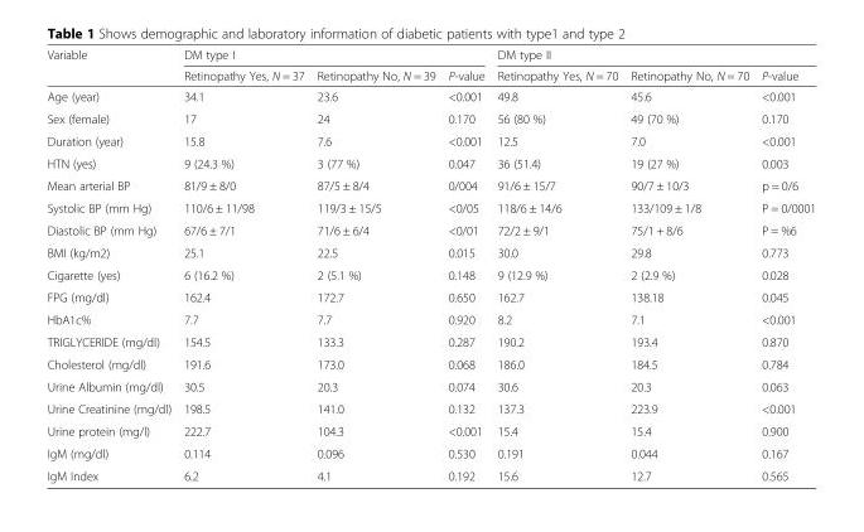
<table><thead><tr><td rowspan="2">Variable</td><td colspan="3">DM type I</td><td colspan="3">DM type II</td></tr><tr><td>Retinopathy Yes, N = 37</td><td>Retinopathy No, N = 39</td><td>P-value</td><td>Retinopathy Yes, N = 70</td><td>Retinopathy No, N = 70</td><td>P-value</td></tr></thead><tbody><tr><td>Age (year)</td><td>34.1</td><td>23.6</td><td>&lt;0.001</td><td>49.8</td><td>45.6</td><td>&lt;0.001</td></tr><tr><td>Sex (female)</td><td>17</td><td>24</td><td>0.170</td><td>56 (80 %)</td><td>49 (70 %)</td><td>0.170</td></tr><tr><td>Duration (year)</td><td>15.8</td><td>7.6</td><td>&lt;0.001</td><td>12.5</td><td>7.0</td><td>&lt;0.001</td></tr><tr><td>HTN (yes)</td><td>9 (24.3 %)</td><td>3 (77 %)</td><td>0.047</td><td>36 (51.4)</td><td>19 (27 %)</td><td>0.003</td></tr><tr><td>Mean arterial BP</td><td>81/9 ± 8/0</td><td>87/5 ± 8/4</td><td>0/004</td><td>91/6 ± 15/7</td><td>90/7 ± 10/3</td><td>p = 0/6</td></tr><tr><td>Systolic BP (mm Hg)</td><td>110/6 ± 11/98</td><td>119/3 ± 15/5</td><td>&lt;0/05</td><td>118/6 ± 14/6</td><td>133/109 ± 1/8</td><td>P = 0/0001</td></tr><tr><td>Diastolic BP (mm Hg)</td><td>67/6 ± 7/1</td><td>71/6 ± 6/4</td><td>&lt;0/01</td><td>72/2 ± 9/1</td><td>75/1 + 8/6</td><td>P = %6</td></tr><tr><td>BMI (kg/m2)</td><td>25.1</td><td>22.5</td><td>0.015</td><td>30.0</td><td>29.8</td><td>0.773</td></tr><tr><td>Cigarette (yes)</td><td>6 (16.2 %)</td><td>2 (5.1 %)</td><td>0.148</td><td>9 (12.9 %)</td><td>2 (2.9 %)</td><td>0.028</td></tr><tr><td>FPG (mg/dl)</td><td>162.4</td><td>172.7</td><td>0.650</td><td>162.7</td><td>138.18</td><td>0.045</td></tr><tr><td>HbA1c%</td><td>7.7</td><td>7.7</td><td>0.920</td><td>8.2</td><td>7.1</td><td>&lt;0.001</td></tr><tr><td>TRIGLYCERIDE (mg/dl)</td><td>154.5</td><td>133.3</td><td>0.287</td><td>190.2</td><td>193.4</td><td>0.870</td></tr><tr><td>Cholesterol (mg/dl)</td><td>191.6</td><td>173.0</td><td>0.068</td><td>186.0</td><td>184.5</td><td>0.784</td></tr><tr><td>Urine Albumin (mg/dl)</td><td>30.5</td><td>20.3</td><td>0.074</td><td>30.6</td><td>20.3</td><td>0.063</td></tr><tr><td>Urine Creatinine (mg/dl)</td><td>198.5</td><td>141.0</td><td>0.132</td><td>137.3</td><td>223.9</td><td>&lt;0.001</td></tr><tr><td>Urine protein (mg/l)</td><td>222.7</td><td>104.3</td><td>&lt;0.001</td><td>15.4</td><td>15.4</td><td>0.900</td></tr><tr><td>IgM (mg/dl)</td><td>0.114</td><td>0.096</td><td>0.530</td><td>0.191</td><td>0.044</td><td>0.167</td></tr><tr><td>IgM Index</td><td>6.2</td><td>4.1</td><td>0.192</td><td>15.6</td><td>12.7</td><td>0.565</td></tr></tbody></table>